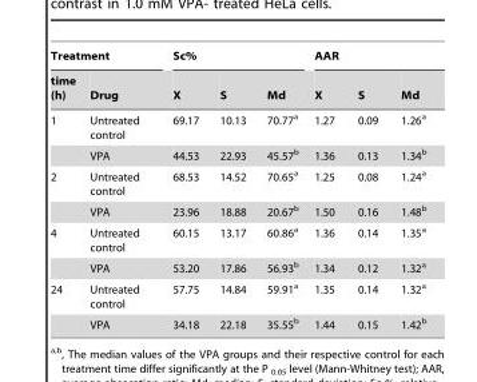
<table><thead><tr><td colspan="2">Treatment</td><td colspan="3">Sc%</td><td colspan="3">AAR</td></tr><tr><td>time (h)</td><td>Drug</td><td>X</td><td>S</td><td>Md</td><td>X</td><td>S</td><td>Md</td></tr></thead><tbody><tr><td rowspan="2">1</td><td>Untreated control</td><td>69.17</td><td>10.13</td><td>70.77<sup>a</sup></td><td>1.27</td><td>0.09</td><td>1.26<sup>a</sup></td></tr><tr><td>VPA</td><td>44.53</td><td>22.93</td><td>45.57<sup>b</sup></td><td>1.36</td><td>0.13</td><td>1.34<sup>b</sup></td></tr><tr><td rowspan="2">2</td><td>Untreated control</td><td>68.53</td><td>14.52</td><td>70.65<sup>a</sup></td><td>1.25</td><td>0.08</td><td>1.24<sup>a</sup></td></tr><tr><td>VPA</td><td>23.96</td><td>18.88</td><td>20.67<sup>b</sup></td><td>1.50</td><td>0.16</td><td>1.48<sup>b</sup></td></tr><tr><td rowspan="2">4</td><td>Untreated control</td><td>60.15</td><td>13.17</td><td>60.86<sup>a</sup></td><td>1.36</td><td>0.14</td><td>1.35<sup>a</sup></td></tr><tr><td>VPA</td><td>53.20</td><td>17.86</td><td>56.93<sup>b</sup></td><td>1.34</td><td>0.12</td><td>1.32<sup>a</sup></td></tr><tr><td rowspan="2">24</td><td>Untreated control</td><td>57.75</td><td>14.84</td><td>59.91<sup>a</sup></td><td>1.35</td><td>0.14</td><td>1.32<sup>a</sup></td></tr><tr><td>VPA</td><td>34.18</td><td>22.18</td><td>35.55<sup>b</sup></td><td>1.44</td><td>0.15</td><td>1.42<sup>b</sup></td></tr></tbody></table>